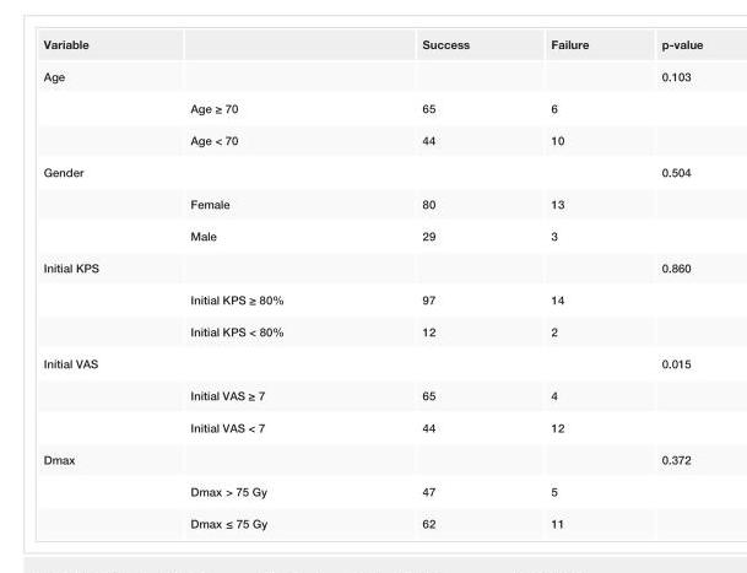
<table><tbody><tr><td>Variable</td><td></td><td>Success</td><td>Failure</td><td>p-value</td></tr><tr><td rowspan="3">Age</td><td></td><td></td><td></td><td>0.103</td></tr><tr><td>Age ≥ 70</td><td>65</td><td>6</td><td></td></tr><tr><td>Age &lt; 70</td><td>44</td><td>10</td><td></td></tr><tr><td rowspan="3">Gender</td><td></td><td></td><td></td><td>0.504</td></tr><tr><td>Female</td><td>80</td><td>13</td><td></td></tr><tr><td>Male</td><td>29</td><td>3</td><td></td></tr><tr><td rowspan="3">Initial KPS</td><td></td><td></td><td></td><td>0.860</td></tr><tr><td>Initial KPS ≥ 80%</td><td>97</td><td>14</td><td></td></tr><tr><td>Initial KPS &lt; 80%</td><td>12</td><td>2</td><td></td></tr><tr><td rowspan="3">Initial VAS</td><td></td><td></td><td></td><td>0.015</td></tr><tr><td>Initial VAS ≥ 7</td><td>65</td><td>4</td><td></td></tr><tr><td>Initial VAS &lt; 7</td><td>44</td><td>12</td><td></td></tr><tr><td rowspan="3">Dmax</td><td></td><td></td><td></td><td>0.372</td></tr><tr><td>Dmax &gt; 75 Gy</td><td>47</td><td>5</td><td></td></tr><tr><td>Dmax ≤ 75 Gy</td><td>62</td><td>11</td><td></td></tr></tbody></table>